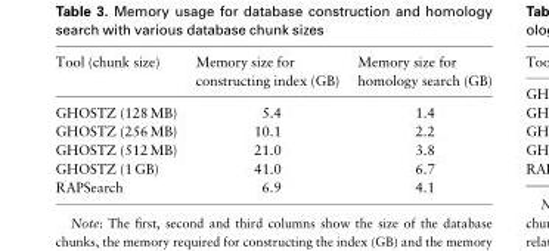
<table><thead><tr><td>Tool (chunk size)</td><td>Memory size for constructing index (GB)</td><td>Memory size for homology search (GB)</td></tr></thead><tbody><tr><td>GHOSTZ (128 MB)</td><td>5.4</td><td>1.4</td></tr><tr><td>GHOSTZ (256 MB)</td><td>10.1</td><td>2.2</td></tr><tr><td>GHOSTZ (512 MB)</td><td>21.0</td><td>3.8</td></tr><tr><td>GHOSTZ (1 GB)</td><td>41.0</td><td>6.7</td></tr><tr><td>RAPSearch</td><td>6.9</td><td>4.1</td></tr></tbody></table>